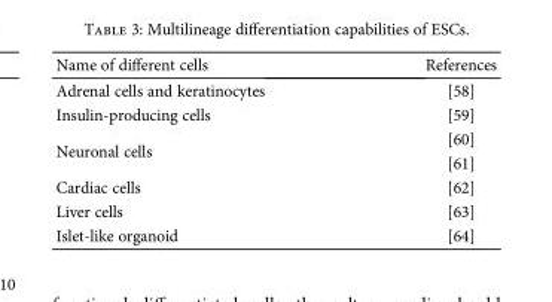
<table><thead><tr><td>Name of different cells</td><td>References</td></tr></thead><tbody><tr><td>Adrenal cells and keratinocytes</td><td>[58]</td></tr><tr><td>Insulin-producing cells</td><td>[59]</td></tr><tr><td rowspan="2">Neuronal cells</td><td>[60]</td></tr><tr><td>[61]</td></tr><tr><td>Cardiac cells</td><td>[62]</td></tr><tr><td>Liver cells</td><td>[63]</td></tr><tr><td>Islet-like organoid</td><td>[64]</td></tr></tbody></table>